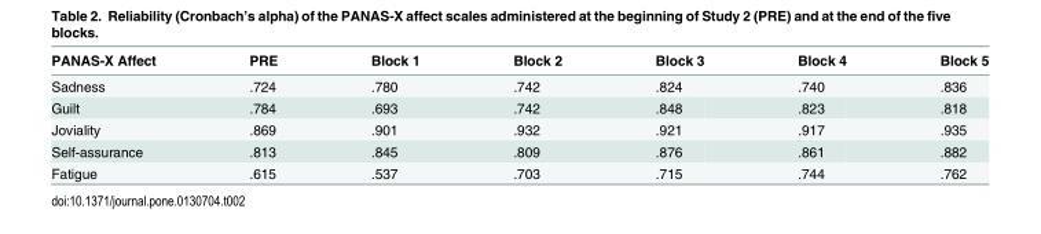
<table><thead><tr><td>PANAS-X Affect</td><td>PRE</td><td>Block 1</td><td>Block 2</td><td>Block 3</td><td>Block 4</td><td>Block 5</td></tr></thead><tbody><tr><td>Sadness</td><td>.724</td><td>.780</td><td>.742</td><td>.824</td><td>.740</td><td>.836</td></tr><tr><td>Guilt</td><td>.784</td><td>.693</td><td>.742</td><td>.848</td><td>.823</td><td>.818</td></tr><tr><td>Joviality</td><td>.869</td><td>.901</td><td>.932</td><td>.921</td><td>.917</td><td>.935</td></tr><tr><td>Self-assurance</td><td>.813</td><td>.845</td><td>.809</td><td>.876</td><td>.861</td><td>.882</td></tr><tr><td>Fatigue</td><td>.615</td><td>.537</td><td>.703</td><td>.715</td><td>.744</td><td>.762</td></tr></tbody></table>